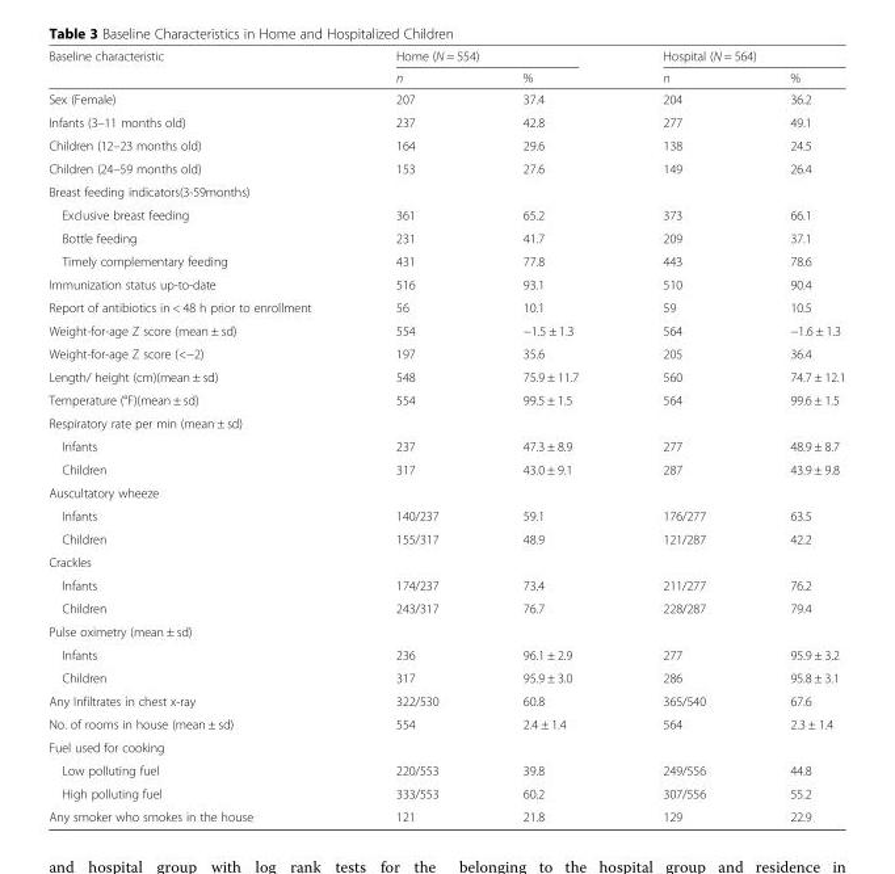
<table><thead><tr><td rowspan="2">Baseline characteristic</td><td colspan="2">Home (N = 554)</td><td colspan="2">Hospital (N = 564)</td></tr><tr><td>n</td><td>%</td><td>n</td><td>%</td></tr></thead><tbody><tr><td>Sex (Female)</td><td>207</td><td>37.4</td><td>204</td><td>36.2</td></tr><tr><td>Infants (3–11 months old)</td><td>237</td><td>42.8</td><td>277</td><td>49.1</td></tr><tr><td>Children (12–23 months old)</td><td>164</td><td>29.6</td><td>138</td><td>24.5</td></tr><tr><td>Children (24–59 months old)</td><td>153</td><td>27.6</td><td>149</td><td>26.4</td></tr><tr><td colspan="5">Breast feeding indicators(3-59months)</td></tr><tr><td>Exclusive breast feeding</td><td>361</td><td>65.2</td><td>373</td><td>66.1</td></tr><tr><td>Bottle feeding</td><td>231</td><td>41.7</td><td>209</td><td>37.1</td></tr><tr><td>Timely complementary feeding</td><td>431</td><td>77.8</td><td>443</td><td>78.6</td></tr><tr><td>Immunization status up-to-date</td><td>516</td><td>93.1</td><td>510</td><td>90.4</td></tr><tr><td>Report of antibiotics in &lt; 48 h prior to enrollment</td><td>56</td><td>10.1</td><td>59</td><td>10.5</td></tr><tr><td>Weight-for-age Z score (mean ± sd)</td><td>554</td><td>−1.5 ± 1.3</td><td>564</td><td>−1.6 ± 1.3</td></tr><tr><td>Weight-for-age Z score (&lt;−2)</td><td>197</td><td>35.6</td><td>205</td><td>36.4</td></tr><tr><td>Length/ height (cm)(mean ± sd)</td><td>548</td><td>75.9 ± 11.7</td><td>560</td><td>74.7 ± 12.1</td></tr><tr><td>Temperature (°F)(mean ± sd)</td><td>554</td><td>99.5 ± 1.5</td><td>564</td><td>99.6 ± 1.5</td></tr><tr><td colspan="5">Respiratory rate per min (mean ± sd)</td></tr><tr><td>Infants</td><td>237</td><td>47.3 ± 8.9</td><td>277</td><td>48.9 ± 8.7</td></tr><tr><td>Children</td><td>317</td><td>43.0 ± 9.1</td><td>287</td><td>43.9 ± 9.8</td></tr><tr><td colspan="5">Auscultatory wheeze</td></tr><tr><td>Infants</td><td>140/237</td><td>59.1</td><td>176/277</td><td>63.5</td></tr><tr><td>Children</td><td>155/317</td><td>48.9</td><td>121/287</td><td>42.2</td></tr><tr><td colspan="5">Crackles</td></tr><tr><td>Infants</td><td>174/237</td><td>73.4</td><td>211/277</td><td>76.2</td></tr><tr><td>Children</td><td>243/317</td><td>76.7</td><td>228/287</td><td>79.4</td></tr><tr><td colspan="5">Pulse oximetry (mean ± sd)</td></tr><tr><td>Infants</td><td>236</td><td>96.1 ± 2.9</td><td>277</td><td>95.9 ± 3.2</td></tr><tr><td>Children</td><td>317</td><td>95.9 ± 3.0</td><td>286</td><td>95.8 ± 3.1</td></tr><tr><td>Any Infiltrates in chest x-ray</td><td>322/530</td><td>60.8</td><td>365/540</td><td>67.6</td></tr><tr><td>No. of rooms in house (mean ± sd)</td><td>554</td><td>2.4 ± 1.4</td><td>564</td><td>2.3 ± 1.4</td></tr><tr><td colspan="5">Fuel used for cooking</td></tr><tr><td>Low polluting fuel</td><td>220/553</td><td>39.8</td><td>249/556</td><td>44.8</td></tr><tr><td>High polluting fuel</td><td>333/553</td><td>60.2</td><td>307/556</td><td>55.2</td></tr><tr><td>Any smoker who smokes in the house</td><td>121</td><td>21.8</td><td>129</td><td>22.9</td></tr></tbody></table>